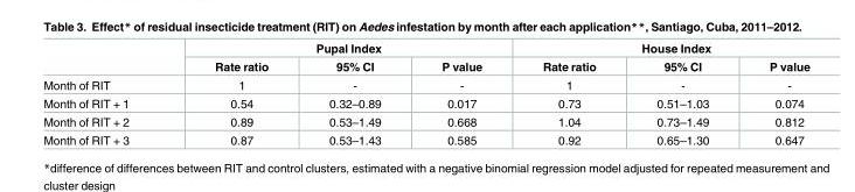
<table><thead><tr><td rowspan="2"></td><td colspan="3">Pupal Index</td><td colspan="3">House Index</td></tr><tr><td>Rate ratio</td><td>95% CI</td><td>P value</td><td>Rate ratio</td><td>95% CI</td><td>P value</td></tr></thead><tbody><tr><td>Month of RIT</td><td>1</td><td>-</td><td>-</td><td>1</td><td>-</td><td>-</td></tr><tr><td>Month of RIT + 1</td><td>0.54</td><td>0.32–0.89</td><td>0.017</td><td>0.73</td><td>0.51–1.03</td><td>0.074</td></tr><tr><td>Month of RIT + 2</td><td>0.89</td><td>0.53–1.49</td><td>0.668</td><td>1.04</td><td>0.73–1.49</td><td>0.812</td></tr><tr><td>Month of RIT + 3</td><td>0.87</td><td>0.53–1.43</td><td>0.585</td><td>0.92</td><td>0.65–1.30</td><td>0.647</td></tr></tbody></table>